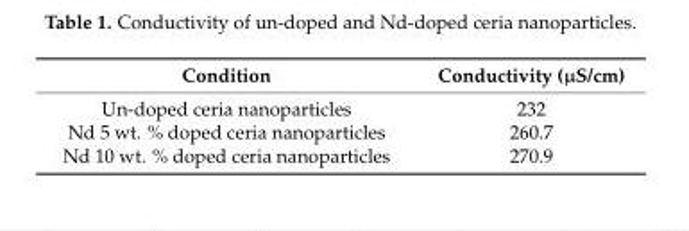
<table><thead><tr><td>Condition</td><td>Conductivity (µS/cm)</td></tr></thead><tbody><tr><td>Un-doped ceria nanoparticles</td><td>232</td></tr><tr><td>Nd 5 wt. % doped ceria nanoparticles</td><td>260.7</td></tr><tr><td>Nd 10 wt. % doped ceria nanoparticles</td><td>270.9</td></tr></tbody></table>